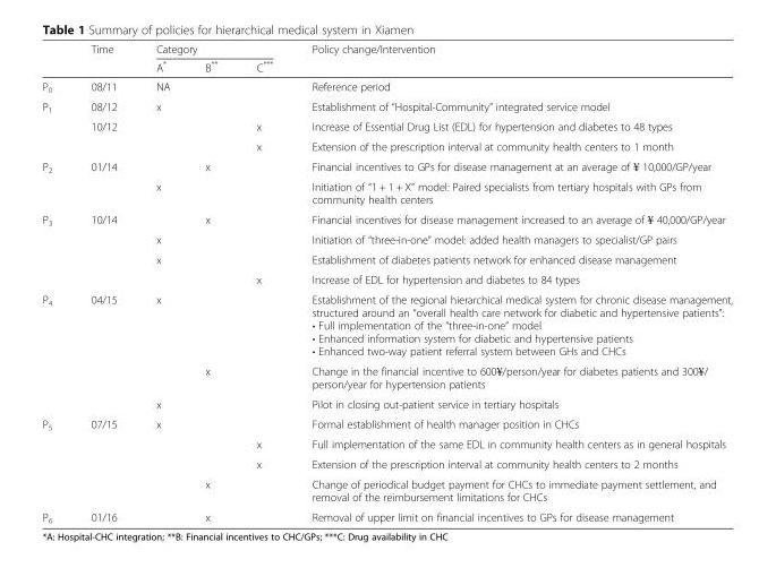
<table><thead><tr><td rowspan="2"></td><td rowspan="2">Time</td><td colspan="3">Category</td><td rowspan="2">Policy change/Intervention</td></tr><tr><td>A*</td><td>B**</td><td>C***</td></tr></thead><tbody><tr><td>P<sub>0</sub></td><td>08/11</td><td colspan="3">NA</td><td>Reference period</td></tr><tr><td rowspan="3">P<sub>1</sub></td><td>08/12</td><td>x</td><td></td><td></td><td>Establishment of “Hospital-Community” integrated service model</td></tr><tr><td rowspan="2">10/12</td><td></td><td></td><td>x</td><td>Increase of Essential Drug List (EDL) for hypertension and diabetes to 48 types</td></tr><tr><td></td><td></td><td>x</td><td>Extension of the prescription interval at community health centers to 1 month</td></tr><tr><td rowspan="2">P<sub>2</sub></td><td rowspan="2">01/14</td><td></td><td>x</td><td></td><td>Financial incentives to GPs for disease management at an average of ¥ 10,000/GP/year</td></tr><tr><td>x</td><td></td><td></td><td>Initiation of “1 + 1 + X” model: Paired specialists from tertiary hospitals with GPs from community health centers</td></tr><tr><td rowspan="4">P<sub>3</sub></td><td rowspan="4">10/14</td><td></td><td>x</td><td></td><td>Financial incentives for disease management increased to an average of ¥ 40,000/GP/year</td></tr><tr><td>x</td><td></td><td></td><td>Initiation of “three-in-one” model: added health managers to specialist/GP pairs</td></tr><tr><td>x</td><td></td><td></td><td>Establishment of diabetes patients network for enhanced disease management</td></tr><tr><td></td><td></td><td>x</td><td>Increase of EDL for hypertension and diabetes to 84 types</td></tr><tr><td rowspan="3">P<sub>4</sub></td><td rowspan="3">04/15</td><td>x</td><td></td><td></td><td>Establishment of the regional hierarchical medical system for chronic disease management, structured around an “overall health care network for diabetic and hypertensive patients”: • Full implementation of the “three-in-one” model • Enhanced information system for diabetic and hypertensive patients • Enhanced two-way patient referral system between GHs and CHCs</td></tr><tr><td></td><td>x</td><td></td><td>Change in the financial incentive to 600¥/person/year for diabetes patients and 300¥/ person/year for hypertension patients</td></tr><tr><td>x</td><td></td><td></td><td>Pilot in closing out-patient service in tertiary hospitals</td></tr><tr><td rowspan="4">P<sub>5</sub></td><td rowspan="4">07/15</td><td>x</td><td></td><td></td><td>Formal establishment of health manager position in CHCs</td></tr><tr><td></td><td></td><td>x</td><td>Full implementation of the same EDL in community health centers as in general hospitals</td></tr><tr><td></td><td></td><td>x</td><td>Extension of the prescription interval at community health centers to 2 months</td></tr><tr><td></td><td>x</td><td></td><td>Change of periodical budget payment for CHCs to immediate payment settlement, and removal of the reimbursement limitations for CHCs</td></tr><tr><td>P<sub>6</sub></td><td>01/16</td><td></td><td>x</td><td></td><td>Removal of upper limit on financial incentives to GPs for disease management</td></tr></tbody></table>